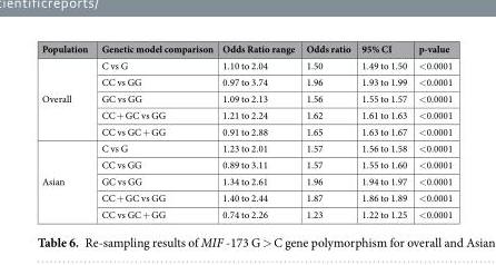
<table><thead><tr><td>Population</td><td>Genetic model comparison</td><td>Odds Ratio range</td><td>Odds ratio</td><td>95% CI</td><td>p-value</td></tr></thead><tbody><tr><td rowspan="5">Overall</td><td>C vs G</td><td>1.10 to 2.04</td><td>1.50</td><td>1.49 to 1.50</td><td>&lt;0.0001</td></tr><tr><td>CC vs GG</td><td>0.97 to 3.74</td><td>1.96</td><td>1.93 to 1.99</td><td>&lt;0.0001</td></tr><tr><td>GC vs GG</td><td>1.09 to 2.13</td><td>1.56</td><td>1.55 to 1.57</td><td>&lt;0.0001</td></tr><tr><td>CC + GC vs GG</td><td>1.21 to 2.24</td><td>1.62</td><td>1.61 to 1.63</td><td>&lt;0.0001</td></tr><tr><td>CC vs GC + GG</td><td>0.91 to 2.88</td><td>1.65</td><td>1.63 to 1.67</td><td>&lt;0.0001</td></tr><tr><td rowspan="5">Asian</td><td>C vs G</td><td>1.23 to 2.01</td><td>1.57</td><td>1.56 to 1.58</td><td>&lt;0.0001</td></tr><tr><td>CC vs GG</td><td>0.89 to 3.11</td><td>1.57</td><td>1.55 to 1.60</td><td>&lt;0.0001</td></tr><tr><td>GC vs GG</td><td>1.34 to 2.61</td><td>1.96</td><td>1.94 to 1.97</td><td>&lt;0.0001</td></tr><tr><td>CC + GC vs GG</td><td>1.40 to 2.44</td><td>1.87</td><td>1.86 to 1.89</td><td>&lt;0.0001</td></tr><tr><td>CC vs GC + GG</td><td>0.74 to 2.26</td><td>1.23</td><td>1.22 to 1.25</td><td>&lt;0.0001</td></tr></tbody></table>